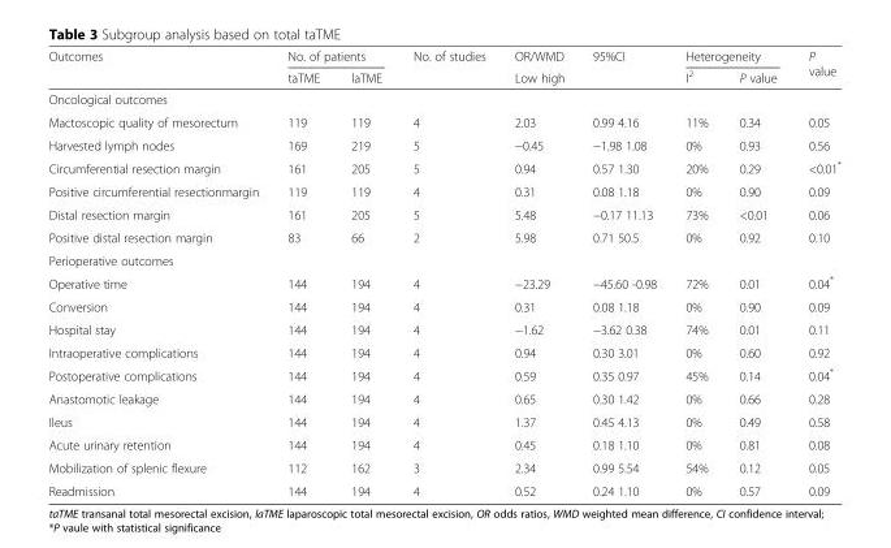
<table><thead><tr><td rowspan="2">Outcomes</td><td colspan="2">No. of patients</td><td rowspan="2">No. of studies</td><td>OR/WMD</td><td>95%CI</td><td colspan="2">Heterogeneity</td><td rowspan="2">P value</td></tr><tr><td>taTME</td><td>laTME</td><td colspan="2">Low high</td><td>I<sup>2</sup></td><td>P value</td></tr></thead><tbody><tr><td colspan="9">Oncological outcomes</td></tr><tr><td>Mactoscopic quality of mesorectum</td><td>119</td><td>119</td><td>4</td><td>2.03</td><td>0.99 4.16</td><td>11%</td><td>0.34</td><td>0.05</td></tr><tr><td>Harvested lymph nodes</td><td>169</td><td>219</td><td>5</td><td>−0.45</td><td>−1.98 1.08</td><td>0%</td><td>0.93</td><td>0.56</td></tr><tr><td>Circumferential resection margin</td><td>161</td><td>205</td><td>5</td><td>0.94</td><td>0.57 1.30</td><td>20%</td><td>0.29</td><td>&lt;0.01*</td></tr><tr><td>Positive circumferential resectionmargin</td><td>119</td><td>119</td><td>4</td><td>0.31</td><td>0.08 1.18</td><td>0%</td><td>0.90</td><td>0.09</td></tr><tr><td>Distal resection margin</td><td>161</td><td>205</td><td>5</td><td>5.48</td><td>−0.17 11.13</td><td>73%</td><td>&lt;0.01</td><td>0.06</td></tr><tr><td>Positive distal resection margin</td><td>83</td><td>66</td><td>2</td><td>5.98</td><td>0.71 50.5</td><td>0%</td><td>0.92</td><td>0.10</td></tr><tr><td colspan="9">Perioperative outcomes</td></tr><tr><td>Operative time</td><td>144</td><td>194</td><td>4</td><td>−23.29</td><td>−45.60 -0.98</td><td>72%</td><td>0.01</td><td>0.04*</td></tr><tr><td>Conversion</td><td>144</td><td>194</td><td>4</td><td>0.31</td><td>0.08 1.18</td><td>0%</td><td>0.90</td><td>0.09</td></tr><tr><td>Hospital stay</td><td>144</td><td>194</td><td>4</td><td>−1.62</td><td>−3.62 0.38</td><td>74%</td><td>0.01</td><td>0.11</td></tr><tr><td>Intraoperative complications</td><td>144</td><td>194</td><td>4</td><td>0.94</td><td>0.30 3.01</td><td>0%</td><td>0.60</td><td>0.92</td></tr><tr><td>Postoperative complications</td><td>144</td><td>194</td><td>4</td><td>0.59</td><td>0.35 0.97</td><td>45%</td><td>0.14</td><td>0.04*</td></tr><tr><td>Anastomotic leakage</td><td>144</td><td>194</td><td>4</td><td>0.65</td><td>0.30 1.42</td><td>0%</td><td>0.66</td><td>0.28</td></tr><tr><td>Ileus</td><td>144</td><td>194</td><td>4</td><td>1.37</td><td>0.45 4.13</td><td>0%</td><td>0.49</td><td>0.58</td></tr><tr><td>Acute urinary retention</td><td>144</td><td>194</td><td>4</td><td>0.45</td><td>0.18 1.10</td><td>0%</td><td>0.81</td><td>0.08</td></tr><tr><td>Mobilization of splenic flexure</td><td>112</td><td>162</td><td>3</td><td>2.34</td><td>0.99 5.54</td><td>54%</td><td>0.12</td><td>0.05</td></tr><tr><td>Readmission</td><td>144</td><td>194</td><td>4</td><td>0.52</td><td>0.24 1.10</td><td>0%</td><td>0.57</td><td>0.09</td></tr></tbody></table>